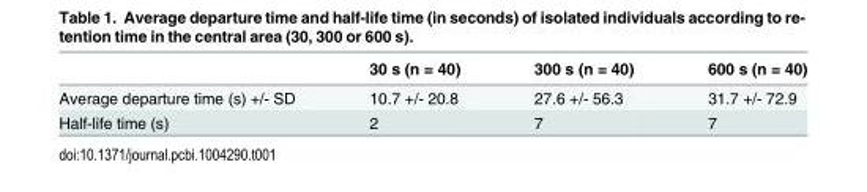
<table><thead><tr><td></td><td>30 s (n = 40)</td><td>300 s (n = 40)</td><td>600 s (n = 40)</td></tr></thead><tbody><tr><td>Average departure time (s) +/- SD</td><td>10.7 +/- 20.8</td><td>27.6 +/- 56.3</td><td>31.7 +/- 72.9</td></tr><tr><td>Half-life time (s)</td><td>2</td><td>7</td><td>7</td></tr></tbody></table>